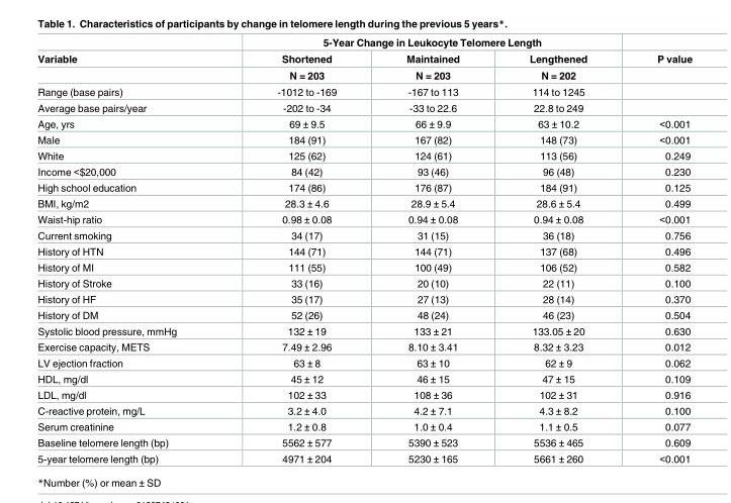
<table><thead><tr><td rowspan="3">Variable</td><td colspan="3">5-Year Change in Leukocyte Telomere Length</td><td rowspan="3">P value</td></tr><tr><td rowspan="2">Shortened N = 203</td><td rowspan="2">Maintained N = 203</td><td rowspan="2">Lengthened N = 202</td></tr><tr></tr></thead><tbody><tr><td>Range (base pairs)</td><td>-1012 to -169</td><td>-167 to 113</td><td>114 to 1245</td><td></td></tr><tr><td>Average base pairs/year</td><td>-202 to -34</td><td>-33 to 22.6</td><td>22.8 to 249</td><td></td></tr><tr><td>Age, yrs</td><td>69 ± 9.5</td><td>66 ± 9.9</td><td>63 ± 10.2</td><td>&lt;0.001</td></tr><tr><td>Male</td><td>184 (91)</td><td>167 (82)</td><td>148 (73)</td><td>&lt;0.001</td></tr><tr><td>White</td><td>125 (62)</td><td>124 (61)</td><td>113 (56)</td><td>0.249</td></tr><tr><td>Income &lt;$20,000</td><td>84 (42)</td><td>93 (46)</td><td>96 (48)</td><td>0.230</td></tr><tr><td>High school education</td><td>174 (86)</td><td>176 (87)</td><td>184 (91)</td><td>0.125</td></tr><tr><td>BMI, kg/m2</td><td>28.3 ± 4.6</td><td>28.9 ± 5.4</td><td>28.6 ± 5.4</td><td>0.499</td></tr><tr><td>Waist-hip ratio</td><td>0.98 ± 0.08</td><td>0.94 ± 0.08</td><td>0.94 ± 0.08</td><td>&lt;0.001</td></tr><tr><td>Current smoking</td><td>34 (17)</td><td>31 (15)</td><td>36 (18)</td><td>0.756</td></tr><tr><td>History of HTN</td><td>144 (71)</td><td>144 (71)</td><td>137 (68)</td><td>0.496</td></tr><tr><td>History of MI</td><td>111 (55)</td><td>100 (49)</td><td>106 (52)</td><td>0.582</td></tr><tr><td>History of Stroke</td><td>33 (16)</td><td>20 (10)</td><td>22 (11)</td><td>0.100</td></tr><tr><td>History of HF</td><td>35 (17)</td><td>27 (13)</td><td>28 (14)</td><td>0.370</td></tr><tr><td>History of DM</td><td>52 (26)</td><td>48 (24)</td><td>46 (23)</td><td>0.504</td></tr><tr><td>Systolic blood pressure, mmHg</td><td>132 ± 19</td><td>133 ± 21</td><td>133.05 ± 20</td><td>0.630</td></tr><tr><td>Exercise capacity, METS</td><td>7.49 ± 2.96</td><td>8.10 ± 3.41</td><td>8.32 ± 3.23</td><td>0.012</td></tr><tr><td>LV ejection fraction</td><td>63 ± 8</td><td>63 ± 10</td><td>62 ± 9</td><td>0.062</td></tr><tr><td>HDL, mg/dl</td><td>45 ± 12</td><td>46 ± 15</td><td>47 ± 15</td><td>0.109</td></tr><tr><td>LDL, mg/dl</td><td>102 ± 33</td><td>108 ± 36</td><td>102 ± 31</td><td>0.916</td></tr><tr><td>C-reactive protein, mg/L</td><td>3.2 ± 4.0</td><td>4.2 ± 7.1</td><td>4.3 ± 8.2</td><td>0.100</td></tr><tr><td>Serum creatinine</td><td>1.2 ± 0.8</td><td>1.0 ± 0.4</td><td>1.1 ± 0.5</td><td>0.077</td></tr><tr><td>Baseline telomere length (bp)</td><td>5562 ± 577</td><td>5390 ± 523</td><td>5536 ± 465</td><td>0.609</td></tr><tr><td>5-year telomere length (bp)</td><td>4971 ± 204</td><td>5230 ± 165</td><td>5661 ± 260</td><td>&lt;0.001</td></tr></tbody></table>